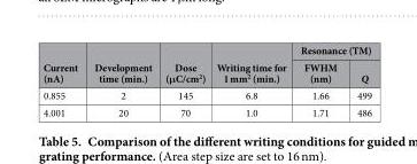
<table><thead><tr><td rowspan="2">Current (nA)</td><td rowspan="2">Development time (min.)</td><td rowspan="2">Dose (μC/cm<sup>2</sup>)</td><td rowspan="2">Writing time for 1 mm<sup>2</sup> (min.)</td><td colspan="2">Resonance (TM)</td></tr><tr><td>FWHM (nm)</td><td>Q</td></tr></thead><tbody><tr><td>0.855</td><td>2</td><td>145</td><td>6.8</td><td>1.66</td><td>499</td></tr><tr><td>4.001</td><td>20</td><td>70</td><td>1.0</td><td>1.71</td><td>486</td></tr></tbody></table>